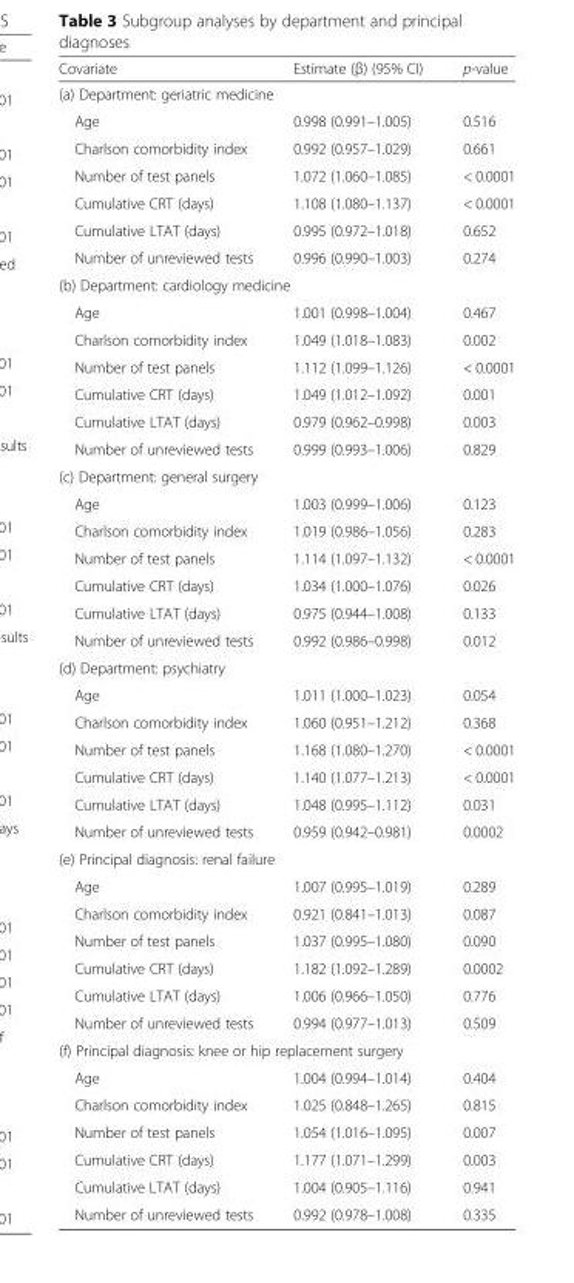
<table><thead><tr><td>Covariate</td><td>Estimate (β) (95% CI)</td><td>p-value</td></tr></thead><tbody><tr><td colspan="3">(a) Department: geriatric medicine</td></tr><tr><td>Age</td><td>0.998 (0.991–1.005)</td><td>0.516</td></tr><tr><td>Charlson comorbidity index</td><td>0.992 (0.957–1.029)</td><td>0.661</td></tr><tr><td>Number of test panels</td><td>1.072 (1.060–1.085)</td><td>&lt; 0.0001</td></tr><tr><td>Cumulative CRT (days)</td><td>1.108 (1.080–1.137)</td><td>&lt; 0.0001</td></tr><tr><td>Cumulative LTAT (days)</td><td>0.995 (0.972–1.018)</td><td>0.652</td></tr><tr><td>Number of unreviewed tests</td><td>0.996 (0.990–1.003)</td><td>0.274</td></tr><tr><td colspan="3">(b) Department: cardiology medicine</td></tr><tr><td>Age</td><td>1.001 (0.998–1.004)</td><td>0.467</td></tr><tr><td>Charlson comorbidity index</td><td>1.049 (1.018–1.083)</td><td>0.002</td></tr><tr><td>Number of test panels</td><td>1.112 (1.099–1.126)</td><td>&lt; 0.0001</td></tr><tr><td>Cumulative CRT (days)</td><td>1.049 (1.012–1.092)</td><td>0.001</td></tr><tr><td>Cumulative LTAT (days)</td><td>0.979 (0.962–0.998)</td><td>0.003</td></tr><tr><td>Number of unreviewed tests</td><td>0.999 (0.993–1.006)</td><td>0.829</td></tr><tr><td colspan="3">(c) Department: general surgery</td></tr><tr><td>Age</td><td>1.003 (0.999–1.006)</td><td>0.123</td></tr><tr><td>Charlson comorbidity index</td><td>1.019 (0.986–1.056)</td><td>0.283</td></tr><tr><td>Number of test panels</td><td>1.114 (1.097–1.132)</td><td>&lt; 0.0001</td></tr><tr><td>Cumulative CRT (days)</td><td>1.034 (1.000–1.076)</td><td>0.026</td></tr><tr><td>Cumulative LTAT (days)</td><td>0.975 (0.944–1.008)</td><td>0.133</td></tr><tr><td>Number of unreviewed tests</td><td>0.992 (0.986–0.998)</td><td>0.012</td></tr><tr><td colspan="3">(d) Department: psychiatry</td></tr><tr><td>Age</td><td>1.011 (1.000–1.023)</td><td>0.054</td></tr><tr><td>Charlson comorbidity index</td><td>1.060 (0.951–1.212)</td><td>0.368</td></tr><tr><td>Number of test panels</td><td>1.168 (1.080–1.270)</td><td>&lt; 0.0001</td></tr><tr><td>Cumulative CRT (days)</td><td>1.140 (1.077–1.213)</td><td>&lt; 0.0001</td></tr><tr><td>Cumulative LTAT (days)</td><td>1.048 (0.995–1.112)</td><td>0.031</td></tr><tr><td>Number of unreviewed tests</td><td>0.959 (0.942–0.981)</td><td>0.0002</td></tr><tr><td colspan="3">(e) Principal diagnosis: renal failure</td></tr><tr><td>Age</td><td>1.007 (0.995–1.019)</td><td>0.289</td></tr><tr><td>Charlson comorbidity index</td><td>0.921 (0.841–1.013)</td><td>0.087</td></tr><tr><td>Number of test panels</td><td>1.037 (0.995–1.080)</td><td>0.090</td></tr><tr><td>Cumulative CRT (days)</td><td>1.182 (1.092–1.289)</td><td>0.0002</td></tr><tr><td>Cumulative LTAT (days)</td><td>1.006 (0.966–1.050)</td><td>0.776</td></tr><tr><td>Number of unreviewed tests</td><td>0.994 (0.977–1.013)</td><td>0.509</td></tr><tr><td colspan="3">(f) Principal diagnosis: knee or hip replacement surgery</td></tr><tr><td>Age</td><td>1.004 (0.994–1.014)</td><td>0.404</td></tr><tr><td>Charlson comorbidity index</td><td>1.025 (0.848–1.265)</td><td>0.815</td></tr><tr><td>Number of test panels</td><td>1.054 (1.016–1.095)</td><td>0.007</td></tr><tr><td>Cumulative CRT (days)</td><td>1.177 (1.071–1.299)</td><td>0.003</td></tr><tr><td>Cumulative LTAT (days)</td><td>1.004 (0.905–1.116)</td><td>0.941</td></tr><tr><td>Number of unreviewed tests</td><td>0.992 (0.978–1.008)</td><td>0.335</td></tr></tbody></table>